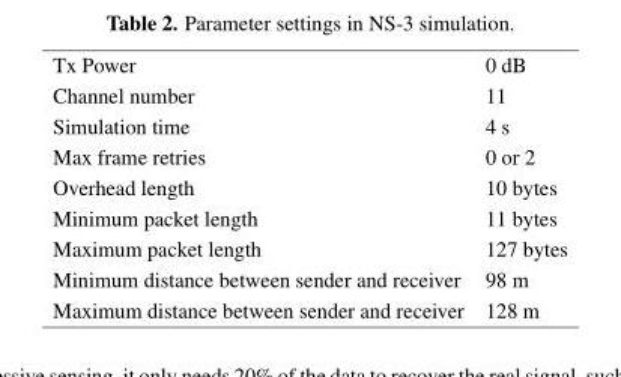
<table><tbody><tr><td>Tx Power</td><td>0 dB</td></tr><tr><td>Channel number</td><td>11</td></tr><tr><td>Simulation time</td><td>4 s</td></tr><tr><td>Max frame retries</td><td>0 or 2</td></tr><tr><td>Overhead length</td><td>10 bytes</td></tr><tr><td>Minimum packet length</td><td>11 bytes</td></tr><tr><td>Maximum packet length</td><td>127 bytes</td></tr><tr><td>Minimum distance between sender and receiver</td><td>98 m</td></tr><tr><td>Maximum distance between sender and receiver</td><td>128 m</td></tr></tbody></table>